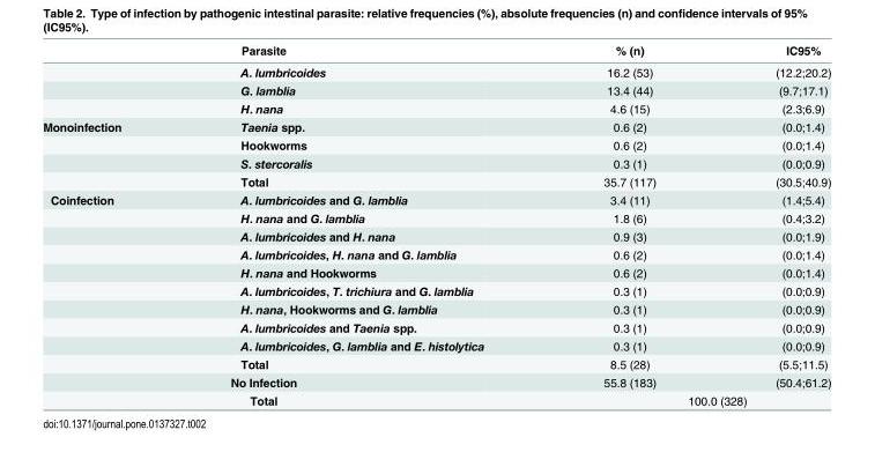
<table><thead><tr><td colspan="2">Parasite</td><td rowspan="2">% (n) 16.2 (53)</td><td rowspan="2">IC95% (12.2;20.2)</td></tr><tr><td></td><td>A. lumbricoides</td></tr></thead><tbody><tr><td></td><td>G. lamblia</td><td>13.4 (44)</td><td>(9.7;17.1)</td></tr><tr><td></td><td>H. nana</td><td>4.6 (15)</td><td>(2.3;6.9)</td></tr><tr><td rowspan="4">Monoinfection</td><td>Taenia spp.</td><td>0.6 (2)</td><td>(0.0;1.4)</td></tr><tr><td>Hookworms</td><td>0.6 (2)</td><td>(0.0;1.4)</td></tr><tr><td>S. stercoralis</td><td>0.3 (1)</td><td>(0.0;0.9)</td></tr><tr><td>Total</td><td>35.7 (117)</td><td>(30.5;40.9)</td></tr><tr><td rowspan="10">Coinfection</td><td>A. lumbricoides and G. lamblia</td><td>3.4 (11)</td><td>(1.4;5.4)</td></tr><tr><td>H. nana and G. lamblia</td><td>1.8 (6)</td><td>(0.4;3.2)</td></tr><tr><td>A. lumbricoides and H. nana</td><td>0.9 (3)</td><td>(0.0;1.9)</td></tr><tr><td>A. lumbricoides, H. nana and G. lamblia</td><td>0.6 (2)</td><td>(0.0;1.4)</td></tr><tr><td>H. nana and Hookworms</td><td>0.6 (2)</td><td>(0.0;1.4)</td></tr><tr><td>A. lumbricoides, T. trichiura and G. lamblia</td><td>0.3 (1)</td><td>(0.0;0.9)</td></tr><tr><td>H. nana, Hookworms and G. lamblia</td><td>0.3 (1)</td><td>(0.0;0.9)</td></tr><tr><td>A. lumbricoides and Taenia spp.</td><td>0.3 (1)</td><td>(0.0;0.9)</td></tr><tr><td>A. lumbricoides, G. lamblia and E. histolytica</td><td>0.3 (1)</td><td>(0.0;0.9)</td></tr><tr><td>Total</td><td>8.5 (28)</td><td>(5.5;11.5)</td></tr><tr><td colspan="2">No Infection</td><td>55.8 (183)</td><td>(50.4;61.2)</td></tr><tr><td colspan="2">Total</td><td colspan="2">100.0 (328)</td></tr></tbody></table>